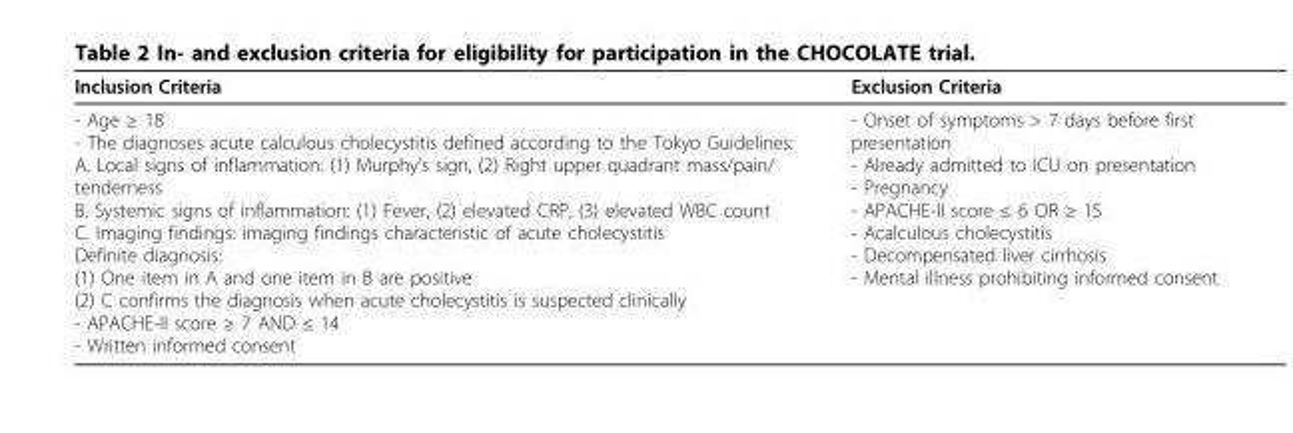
<table><thead><tr><td>Inclusion Criteria</td><td>Exclusion Criteria</td></tr></thead><tbody><tr><td>- Age ≥ 18 - The diagnoses acute calculous cholecystitis defined according to the Tokyo Guidelines: A. Local signs of inflammation: (1) Murphy’s sign, (2) Right upper quadrant mass/pain/ tenderness B. Systemic signs of inflammation: (1) Fever, (2) elevated CRP, (3) elevated WBC count C. Imaging findings: imaging findings characteristic of acute cholecystitis Definite diagnosis: (1) One item in A and one item in B are positive (2) C confirms the diagnosis when acute cholecystitis is suspected clinically - APACHE-II score ≥ 7 AND ≤ 14 - Written informed consent</td><td>- Onset of symptoms &gt; 7 days before first presentation - Already admitted to ICU on presentation - Pregnancy - APACHE-II score ≤ 6 OR ≥ 15 - Acalculous cholecystitis - Decompensated liver cirrhosis - Mental illness prohibiting informed consent</td></tr></tbody></table>